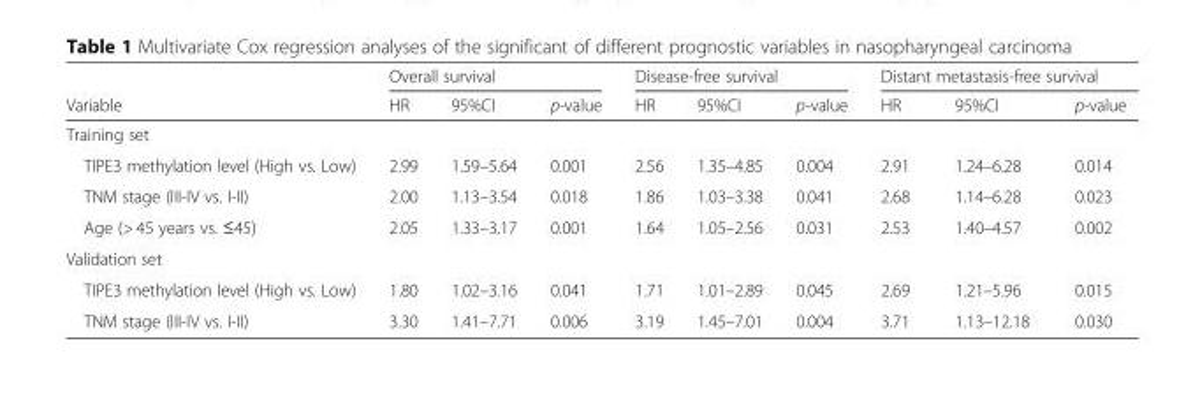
<table><thead><tr><td rowspan="2">Variable</td><td colspan="3">Overall survival</td><td colspan="3">Disease-free survival</td><td colspan="3">Distant metastasis-free survival</td></tr><tr><td>HR</td><td>95%CI</td><td>p-value</td><td>HR</td><td>95%CI</td><td>p-value</td><td>HR</td><td>95%CI</td><td>p-value</td></tr></thead><tbody><tr><td colspan="10">Training set</td></tr><tr><td>TIPE3 methylation level (High vs. Low)</td><td>2.99</td><td>1.59–5.64</td><td>0.001</td><td>2.56</td><td>1.35–4.85</td><td>0.004</td><td>2.91</td><td>1.24–6.28</td><td>0.014</td></tr><tr><td>TNM stage (III-IV vs. I-II)</td><td>2.00</td><td>1.13–3.54</td><td>0.018</td><td>1.86</td><td>1.03–3.38</td><td>0.041</td><td>2.68</td><td>1.14–6.28</td><td>0.023</td></tr><tr><td>Age (&gt; 45 years vs. ≤45)</td><td>2.05</td><td>1.33–3.17</td><td>0.001</td><td>1.64</td><td>1.05–2.56</td><td>0.031</td><td>2.53</td><td>1.40–4.57</td><td>0.002</td></tr><tr><td colspan="10">Validation set</td></tr><tr><td>TIPE3 methylation level (High vs. Low)</td><td>1.80</td><td>1.02–3.16</td><td>0.041</td><td>1.71</td><td>1.01–2.89</td><td>0.045</td><td>2.69</td><td>1.21–5.96</td><td>0.015</td></tr><tr><td>TNM stage (III-IV vs. I-II)</td><td>3.30</td><td>1.41–7.71</td><td>0.006</td><td>3.19</td><td>1.45–7.01</td><td>0.004</td><td>3.71</td><td>1.13–12.18</td><td>0.030</td></tr></tbody></table>